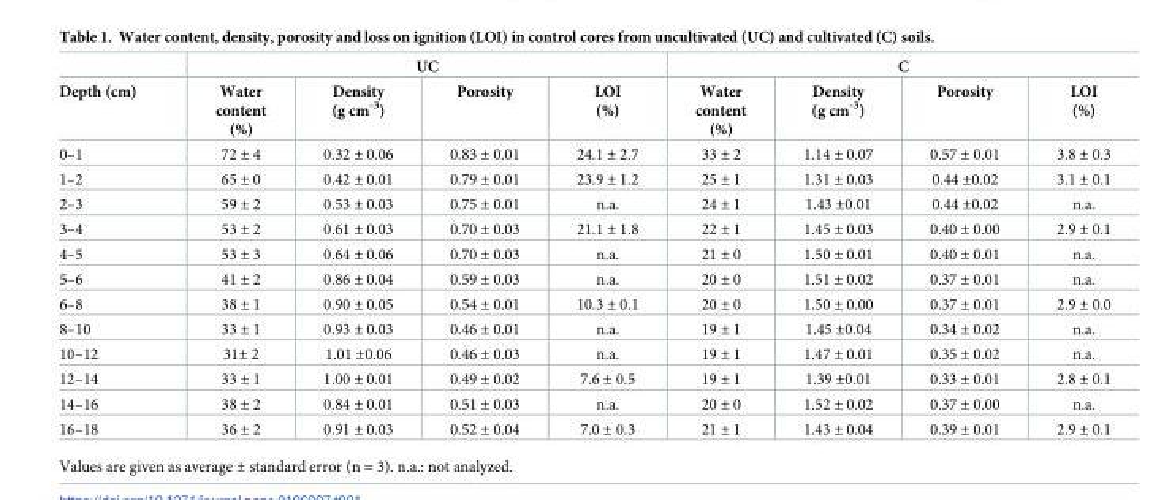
<table><thead><tr><td rowspan="2">Depth (cm)</td><td colspan="4">UC</td><td colspan="4">C</td></tr><tr><td>Water content (%)</td><td>Density (g cm<sup>-3</sup>)</td><td>Porosity</td><td>LOI (%)</td><td>Water content (%)</td><td>Density (g cm<sup>-3</sup>)</td><td>Porosity</td><td>LOI (%)</td></tr></thead><tbody><tr><td>0–1</td><td>72 ± 4</td><td>0.32 ± 0.06</td><td>0.83 ± 0.01</td><td>24.1 ± 2.7</td><td>33 ± 2</td><td>1.14 ± 0.07</td><td>0.57 ± 0.01</td><td>3.8 ± 0.3</td></tr><tr><td>1–2</td><td>65 ± 0</td><td>0.42 ± 0.01</td><td>0.79 ± 0.01</td><td>23.9 ± 1.2</td><td>25 ± 1</td><td>1.31 ± 0.03</td><td>0.44 ±0.02</td><td>3.1 ± 0.1</td></tr><tr><td>2–3</td><td>59 ± 2</td><td>0.53 ± 0.03</td><td>0.75 ± 0.01</td><td>n.a.</td><td>24 ± 1</td><td>1.43 ±0.01</td><td>0.44 ±0.02</td><td>n.a.</td></tr><tr><td>3–4</td><td>53 ± 2</td><td>0.61 ± 0.03</td><td>0.70 ± 0.03</td><td>21.1 ± 1.8</td><td>22 ± 1</td><td>1.45 ± 0.03</td><td>0.40 ± 0.00</td><td>2.9 ± 0.1</td></tr><tr><td>4–5</td><td>53 ± 3</td><td>0.64 ± 0.06</td><td>0.70 ± 0.03</td><td>n.a.</td><td>21 ± 0</td><td>1.50 ± 0.01</td><td>0.40 ± 0.01</td><td>n.a.</td></tr><tr><td>5–6</td><td>41 ± 2</td><td>0.86 ± 0.04</td><td>0.59 ± 0.03</td><td>n.a.</td><td>20 ± 0</td><td>1.51 ± 0.02</td><td>0.37 ± 0.01</td><td>n.a.</td></tr><tr><td>6–8</td><td>38 ± 1</td><td>0.90 ± 0.05</td><td>0.54 ± 0.01</td><td>10.3 ± 0.1</td><td>20 ± 0</td><td>1.50 ± 0.00</td><td>0.37 ± 0.01</td><td>2.9 ± 0.0</td></tr><tr><td>8–10</td><td>33 ± 1</td><td>0.93 ± 0.03</td><td>0.46 ± 0.01</td><td>n.a.</td><td>19 ± 1</td><td>1.45 ±0.04</td><td>0.34 ± 0.02</td><td>n.a.</td></tr><tr><td>10–12</td><td>31± 2</td><td>1.01 ±0.06</td><td>0.46 ± 0.03</td><td>n.a.</td><td>19 ± 1</td><td>1.47 ± 0.01</td><td>0.35 ± 0.02</td><td>n.a.</td></tr><tr><td>12–14</td><td>33 ± 1</td><td>1.00 ± 0.01</td><td>0.49 ± 0.02</td><td>7.6 ± 0.5</td><td>19 ± 1</td><td>1.39 ±0.01</td><td>0.33 ± 0.01</td><td>2.8 ± 0.1</td></tr><tr><td>14–16</td><td>38 ± 2</td><td>0.84 ± 0.01</td><td>0.51 ± 0.03</td><td>n.a.</td><td>20 ± 0</td><td>1.52 ± 0.02</td><td>0.37 ± 0.00</td><td>n.a.</td></tr><tr><td>16–18</td><td>36 ± 2</td><td>0.91 ± 0.03</td><td>0.52 ± 0.04</td><td>7.0 ± 0.3</td><td>21 ± 1</td><td>1.43 ± 0.04</td><td>0.39 ± 0.01</td><td>2.9 ± 0.1</td></tr></tbody></table>